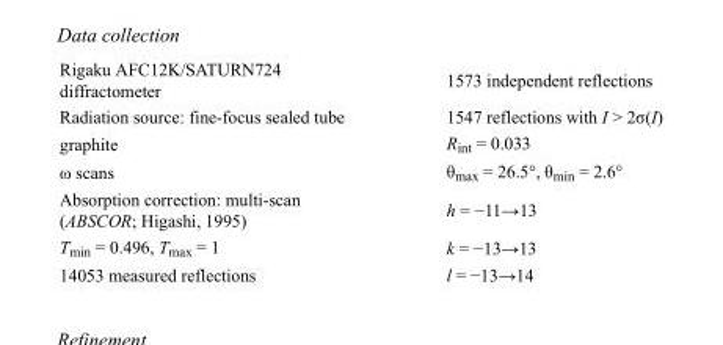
<table><tbody><tr><td>Rigaku AFC12K/SATURN724 diffractometer</td><td>1573 independent reflections</td></tr><tr><td>Radiation source: fine-focus sealed tube</td><td>1547 reflections with I &gt; 2σ(I)</td></tr><tr><td>graphite</td><td>R<sub>int</sub> = 0.033</td></tr><tr><td>ω scans</td><td>θ<sub>max</sub> = 26.5°, θ<sub>min</sub> = 2.6°</td></tr><tr><td>Absorption correction: multi-scan (ABSCOR; Higashi, 1995)</td><td>h = −11→13</td></tr><tr><td>T<sub>min</sub> = 0.496, T<sub>max</sub> = 1</td><td>k = −13→13</td></tr><tr><td>14053 measured reflections</td><td>l = −13→14</td></tr></tbody></table>